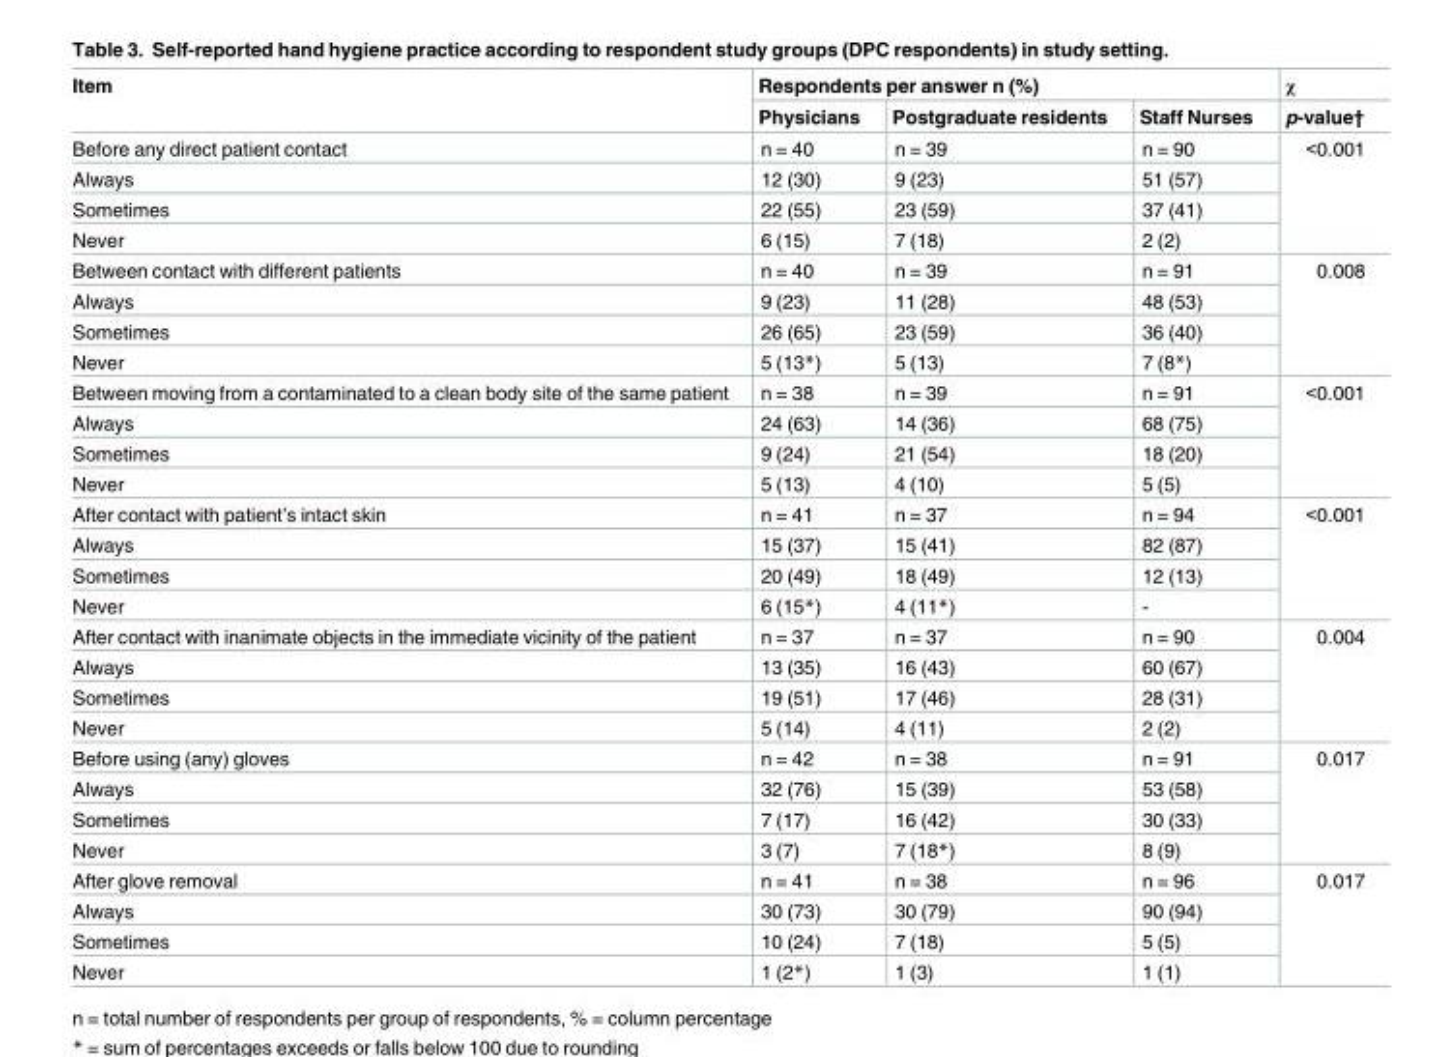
<table><thead><tr><td rowspan="2">Item</td><td colspan="3">Respondents per answer n (%)</td><td rowspan="2">χ p-value†</td></tr><tr><td>Physicians</td><td>Postgraduate residents</td><td>Staff Nurses</td></tr></thead><tbody><tr><td>Before any direct patient contact</td><td>n = 40</td><td>n = 39</td><td>n = 90</td><td rowspan="4">&lt;0.001</td></tr><tr><td>Always</td><td>12 (30)</td><td>9 (23)</td><td>51 (57)</td></tr><tr><td>Sometimes</td><td>22 (55)</td><td>23 (59)</td><td>37 (41)</td></tr><tr><td>Never</td><td>6 (15)</td><td>7 (18)</td><td>2 (2)</td></tr><tr><td>Between contact with different patients</td><td>n = 40</td><td>n = 39</td><td>n = 91</td><td rowspan="4">0.008</td></tr><tr><td>Always</td><td>9 (23)</td><td>11 (28)</td><td>48 (53)</td></tr><tr><td>Sometimes</td><td>26 (65)</td><td>23 (59)</td><td>36 (40)</td></tr><tr><td>Never</td><td>5 (13*)</td><td>5 (13)</td><td>7 (8*)</td></tr><tr><td>Between moving from a contaminated to a clean body site of the same patient</td><td>n = 38</td><td>n = 39</td><td>n = 91</td><td rowspan="4">&lt;0.001</td></tr><tr><td>Always</td><td>24 (63)</td><td>14 (36)</td><td>68 (75)</td></tr><tr><td>Sometimes</td><td>9 (24)</td><td>21 (54)</td><td>18 (20)</td></tr><tr><td>Never</td><td>5 (13)</td><td>4 (10)</td><td>5 (5)</td></tr><tr><td>After contact with patient’s intact skin</td><td>n = 41</td><td>n = 37</td><td>n = 94</td><td rowspan="4">&lt;0.001</td></tr><tr><td>Always</td><td>15 (37)</td><td>15 (41)</td><td>82 (87)</td></tr><tr><td>Sometimes</td><td>20 (49)</td><td>18 (49)</td><td>12 (13)</td></tr><tr><td>Never</td><td>6 (15*)</td><td>4 (11*)</td><td>-</td></tr><tr><td>After contact with inanimate objects in the immediate vicinity of the patient</td><td>n = 37</td><td>n = 37</td><td>n = 90</td><td rowspan="4">0.004</td></tr><tr><td>Always</td><td>13 (35)</td><td>16 (43)</td><td>60 (67)</td></tr><tr><td>Sometimes</td><td>19 (51)</td><td>17 (46)</td><td>28 (31)</td></tr><tr><td>Never</td><td>5 (14)</td><td>4 (11)</td><td>2 (2)</td></tr><tr><td>Before using (any) gloves</td><td>n = 42</td><td>n = 38</td><td>n = 91</td><td rowspan="4">0.017</td></tr><tr><td>Always</td><td>32 (76)</td><td>15 (39)</td><td>53 (58)</td></tr><tr><td>Sometimes</td><td>7 (17)</td><td>16 (42)</td><td>30 (33)</td></tr><tr><td>Never</td><td>3 (7)</td><td>7 (18*)</td><td>8 (9)</td></tr><tr><td>After glove removal</td><td>n = 41</td><td>n = 38</td><td>n = 96</td><td rowspan="4">0.017</td></tr><tr><td>Always</td><td>30 (73)</td><td>30 (79)</td><td>90 (94)</td></tr><tr><td>Sometimes</td><td>10 (24)</td><td>7 (18)</td><td>5 (5)</td></tr><tr><td>Never</td><td>1 (2*)</td><td>1 (3)</td><td>1 (1)</td></tr></tbody></table>